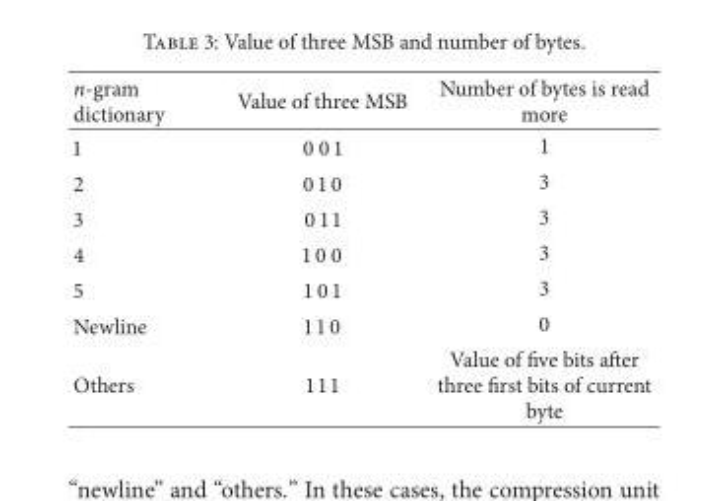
<table><thead><tr><td>n-gram dictionary</td><td>Value of three MSB</td><td>Number of bytes is read more</td></tr></thead><tbody><tr><td>1</td><td>0 0 1</td><td>1</td></tr><tr><td>2</td><td>0 1 0</td><td>3</td></tr><tr><td>3</td><td>0 1 1</td><td>3</td></tr><tr><td>4</td><td>1 0 0</td><td>3</td></tr><tr><td>5</td><td>1 0 1</td><td>3</td></tr><tr><td>Newline</td><td>1 1 0</td><td>0</td></tr><tr><td>Others</td><td>1 1 1</td><td>Value of five bits after three first bits of current byte</td></tr></tbody></table>